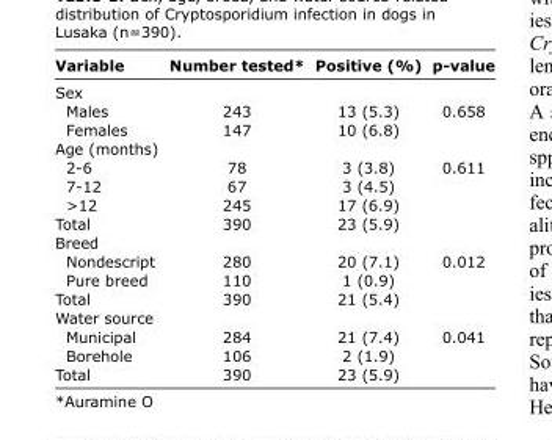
<table><thead><tr><td>Variable</td><td>Number tested*</td><td>Positive (%)</td><td>p-value</td></tr></thead><tbody><tr><td colspan="4">Sex</td></tr><tr><td>Males</td><td>243</td><td>13 (5.3)</td><td>0.658</td></tr><tr><td>Females</td><td>147</td><td>10 (6.8)</td><td></td></tr><tr><td colspan="4">Age (months)</td></tr><tr><td>2-6</td><td>78</td><td>3 (3.8)</td><td>0.611</td></tr><tr><td>7-12</td><td>67</td><td>3 (4.5)</td><td></td></tr><tr><td>&gt;12</td><td>245</td><td>17 (6.9)</td><td></td></tr><tr><td>Total</td><td>390</td><td>23 (5.9)</td><td></td></tr><tr><td colspan="4">Breed</td></tr><tr><td>Nondescript</td><td>280</td><td>20 (7.1)</td><td>0.012</td></tr><tr><td>Pure breed</td><td>110</td><td>1 (0.9)</td><td></td></tr><tr><td>Total</td><td>390</td><td>21 (5.4)</td><td></td></tr><tr><td colspan="4">Water source</td></tr><tr><td>Municipal</td><td>284</td><td>21 (7.4)</td><td>0.041</td></tr><tr><td>Borehole</td><td>106</td><td>2 (1.9)</td><td></td></tr><tr><td>Total</td><td>390</td><td>23 (5.9)</td><td></td></tr></tbody></table>